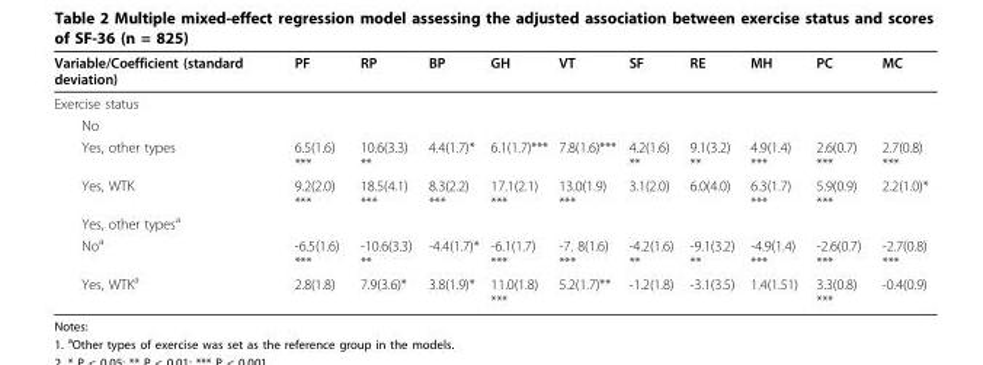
<table><thead><tr><td>Variable/Coefficient (standard deviation)</td><td>PF</td><td>RP</td><td>BP</td><td>GH</td><td>VT</td><td>SF</td><td>RE</td><td>MH</td><td>PC</td><td>MC</td></tr></thead><tbody><tr><td colspan="11">Exercise status</td></tr><tr><td colspan="11">No</td></tr><tr><td>Yes, other types</td><td>6.5(1.6) ***</td><td>10.6(3.3) **</td><td>4.4(1.7)*</td><td>6.1(1.7)***</td><td>7.8(1.6)***</td><td>4.2(1.6) **</td><td>9.1(3.2) **</td><td>4.9(1.4) ***</td><td>2.6(0.7) ***</td><td>2.7(0.8) ***</td></tr><tr><td>Yes, WTK</td><td>9.2(2.0) ***</td><td>18.5(4.1) ***</td><td>8.3(2.2) ***</td><td>17.1(2.1) ***</td><td>13.0(1.9) ***</td><td>3.1(2.0)</td><td>6.0(4.0)</td><td>6.3(1.7) ***</td><td>5.9(0.9) ***</td><td>2.2(1.0)*</td></tr><tr><td colspan="11">Yes, other types<sup>a</sup></td></tr><tr><td>No<sup>a</sup></td><td>-6.5(1.6) ***</td><td>-10.6(3.3) **</td><td>-4.4(1.7)*</td><td>-6.1(1.7) ***</td><td>-7. 8(1.6) ***</td><td>-4.2(1.6) **</td><td>-9.1(3.2) **</td><td>-4.9(1.4) ***</td><td>-2.6(0.7) ***</td><td>-2.7(0.8) ***</td></tr><tr><td>Yes, WTK<sup>a</sup></td><td>2.8(1.8)</td><td>7.9(3.6)*</td><td>3.8(1.9)*</td><td>11.0(1.8) ***</td><td>5.2(1.7)**</td><td>-1.2(1.8)</td><td>-3.1(3.5)</td><td>1.4(1.51)</td><td>3.3(0.8) ***</td><td>-0.4(0.9)</td></tr></tbody></table>